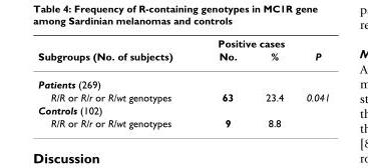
<table><thead><tr><td rowspan="2">Subgroups (No. of subjects)</td><td colspan="2">Positive cases</td><td rowspan="2">P</td></tr><tr><td>No.</td><td>%</td></tr></thead><tbody><tr><td colspan="4">Patients (269)</td></tr><tr><td>R/R or R/r or R/wt genotypes</td><td>63</td><td>23.4</td><td>0.041</td></tr><tr><td colspan="4">Controls (102)</td></tr><tr><td>R/R or R/r or R/wt genotypes</td><td>9</td><td>8.8</td><td></td></tr></tbody></table>